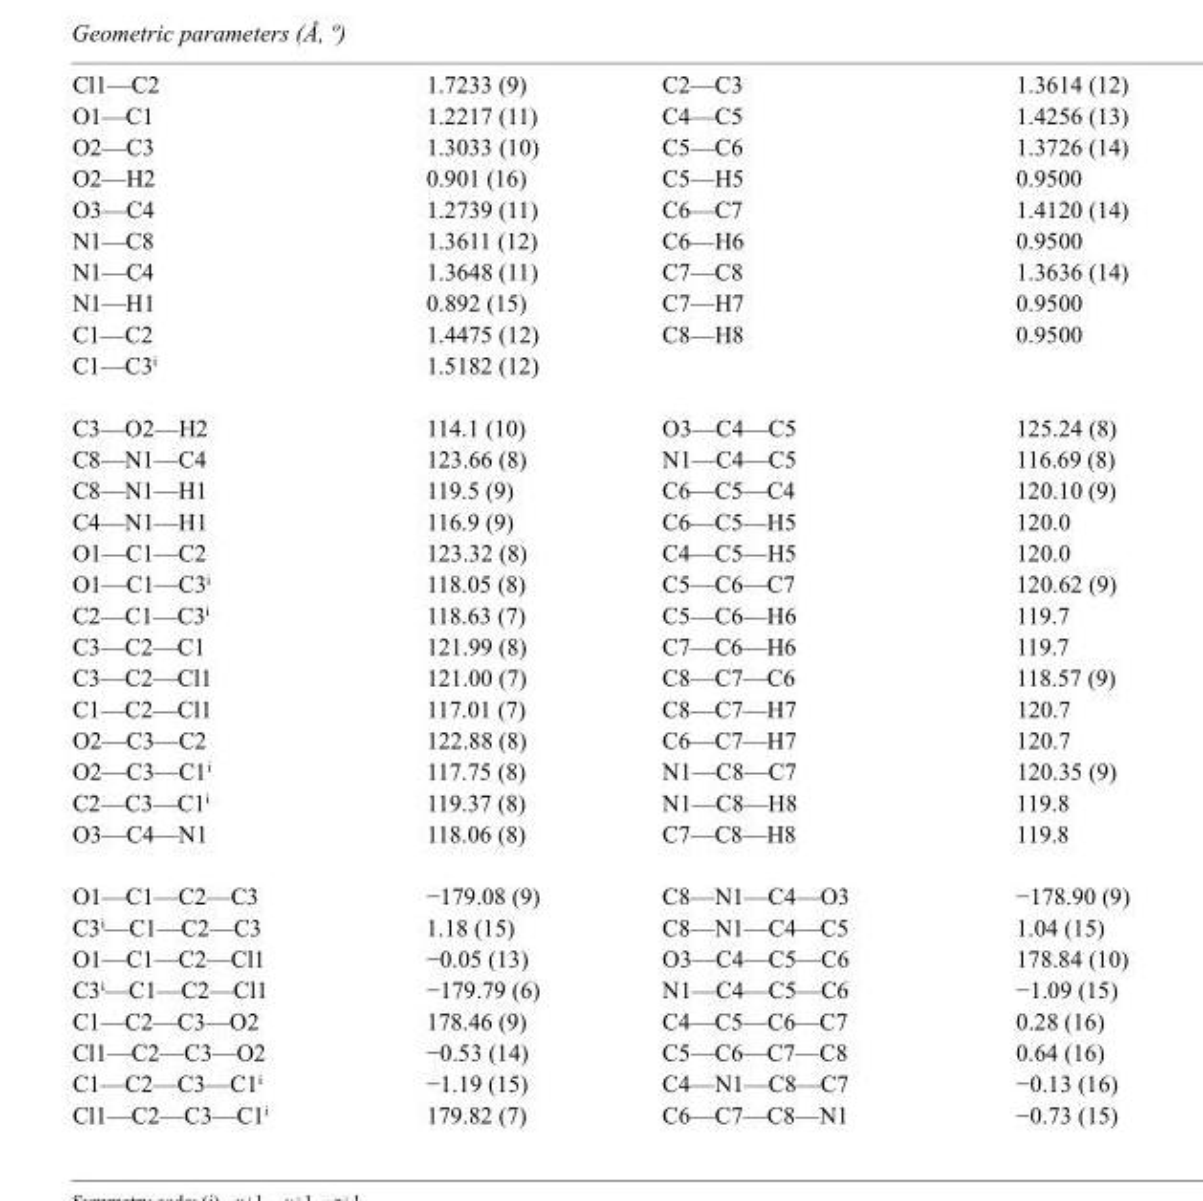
<table><tbody><tr><td>Cl1—C2</td><td>1.7233 (9)</td><td>C2—C3</td><td>1.3614 (12)</td></tr><tr><td>O1—C1</td><td>1.2217 (11)</td><td>C4—C5</td><td>1.4256 (13)</td></tr><tr><td>O2—C3</td><td>1.3033 (10)</td><td>C5—C6</td><td>1.3726 (14)</td></tr><tr><td>O2—H2</td><td>0.901 (16)</td><td>C5—H5</td><td>0.9500</td></tr><tr><td>O3—C4</td><td>1.2739 (11)</td><td>C6—C7</td><td>1.4120 (14)</td></tr><tr><td>N1—C8</td><td>1.3611 (12)</td><td>C6—H6</td><td>0.9500</td></tr><tr><td>N1—C4</td><td>1.3648 (11)</td><td>C7—C8</td><td>1.3636 (14)</td></tr><tr><td>N1—H1</td><td>0.892 (15)</td><td>C7—H7</td><td>0.9500</td></tr><tr><td>C1—C2</td><td>1.4475 (12)</td><td>C8—H8</td><td>0.9500</td></tr><tr><td>C1—C3<sup>i</sup></td><td>1.5182 (12)</td><td></td><td></td></tr><tr><td>C3—O2—H2</td><td>114.1 (10)</td><td>O3—C4—C5</td><td>125.24 (8)</td></tr><tr><td>C8—N1—C4</td><td>123.66 (8)</td><td>N1—C4—C5</td><td>116.69 (8)</td></tr><tr><td>C8—N1—H1</td><td>119.5 (9)</td><td>C6—C5—C4</td><td>120.10 (9)</td></tr><tr><td>C4—N1—H1</td><td>116.9 (9)</td><td>C6—C5—H5</td><td>120.0</td></tr><tr><td>O1—C1—C2</td><td>123.32 (8)</td><td>C4—C5—H5</td><td>120.0</td></tr><tr><td>O1—C1—C3<sup>i</sup></td><td>118.05 (8)</td><td>C5—C6—C7</td><td>120.62 (9)</td></tr><tr><td>C2—C1—C3<sup>i</sup></td><td>118.63 (7)</td><td>C5—C6—H6</td><td>119.7</td></tr><tr><td>C3—C2—C1</td><td>121.99 (8)</td><td>C7—C6—H6</td><td>119.7</td></tr><tr><td>C3—C2—Cl1</td><td>121.00 (7)</td><td>C8—C7—C6</td><td>118.57 (9)</td></tr><tr><td>C1—C2—Cl1</td><td>117.01 (7)</td><td>C8—C7—H7</td><td>120.7</td></tr><tr><td>O2—C3—C2</td><td>122.88 (8)</td><td>C6—C7—H7</td><td>120.7</td></tr><tr><td>O2—C3—C1<sup>i</sup></td><td>117.75 (8)</td><td>N1—C8—C7</td><td>120.35 (9)</td></tr><tr><td>C2—C3—C1<sup>i</sup></td><td>119.37 (8)</td><td>N1—C8—H8</td><td>119.8</td></tr><tr><td>O3—C4—N1</td><td>118.06 (8)</td><td>C7—C8—H8</td><td>119.8</td></tr><tr><td>O1—C1—C2—C3</td><td>−179.08 (9)</td><td>C8—N1—C4—O3</td><td>−178.90 (9)</td></tr><tr><td>C3<sup>i</sup>—C1—C2—C3</td><td>1.18 (15)</td><td>C8—N1—C4—C5</td><td>1.04 (15)</td></tr><tr><td>O1—C1—C2—Cl1</td><td>−0.05 (13)</td><td>O3—C4—C5—C6</td><td>178.84 (10)</td></tr><tr><td>C3<sup>i</sup>—C1—C2—Cl1</td><td>−179.79 (6)</td><td>N1—C4—C5—C6</td><td>−1.09 (15)</td></tr><tr><td>C1—C2—C3—O2</td><td>178.46 (9)</td><td>C4—C5—C6—C7</td><td>0.28 (16)</td></tr><tr><td>Cl1—C2—C3—O2</td><td>−0.53 (14)</td><td>C5—C6—C7—C8</td><td>0.64 (16)</td></tr><tr><td>C1—C2—C3—C1<sup>i</sup></td><td>−1.19 (15)</td><td>C4—N1—C8—C7</td><td>−0.13 (16)</td></tr><tr><td>Cl1—C2—C3—C1<sup>i</sup></td><td>179.82 (7)</td><td>C6—C7—C8—N1</td><td>−0.73 (15)</td></tr></tbody></table>